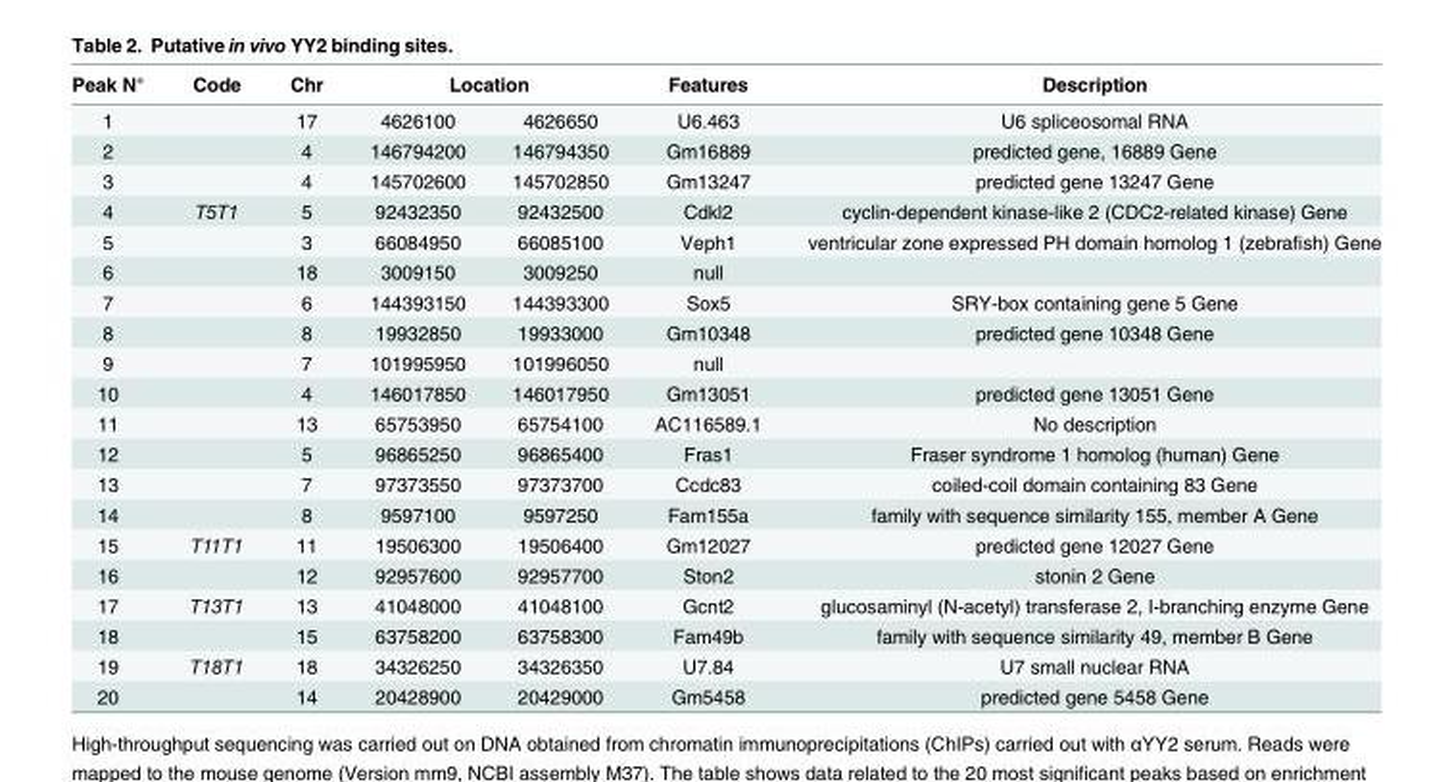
<table><thead><tr><td rowspan="2">Peak N° 1</td><td rowspan="2">Code</td><td rowspan="2">Chr 17</td><td colspan="2">Location</td><td rowspan="2">Features U6.463</td><td rowspan="2">Description U6 spliceosomal RNA</td></tr><tr><td>4626100</td><td>4626650</td></tr></thead><tbody><tr><td>2</td><td></td><td>4</td><td>146794200</td><td>146794350</td><td>Gm16889</td><td>predicted gene, 16889 Gene</td></tr><tr><td>3</td><td></td><td>4</td><td>145702600</td><td>145702850</td><td>Gm13247</td><td>predicted gene 13247 Gene</td></tr><tr><td>4</td><td>T5T1</td><td>5</td><td>92432350</td><td>92432500</td><td>Cdkl2</td><td>cyclin-dependent kinase-like 2 (CDC2-related kinase) Gene</td></tr><tr><td>5</td><td></td><td>3</td><td>66084950</td><td>66085100</td><td>Veph1</td><td>ventricular zone expressed PH domain homolog 1 (zebrafish) Gene</td></tr><tr><td>6</td><td></td><td>18</td><td>3009150</td><td>3009250</td><td>null</td><td></td></tr><tr><td>7</td><td></td><td>6</td><td>144393150</td><td>144393300</td><td>Sox5</td><td>SRY-box containing gene 5 Gene</td></tr><tr><td>8</td><td></td><td>8</td><td>19932850</td><td>19933000</td><td>Gm10348</td><td>predicted gene 10348 Gene</td></tr><tr><td>9</td><td></td><td>7</td><td>101995950</td><td>101996050</td><td>null</td><td></td></tr><tr><td>10</td><td></td><td>4</td><td>146017850</td><td>146017950</td><td>Gm13051</td><td>predicted gene 13051 Gene</td></tr><tr><td>11</td><td></td><td>13</td><td>65753950</td><td>65754100</td><td>AC116589.1</td><td>No description</td></tr><tr><td>12</td><td></td><td>5</td><td>96865250</td><td>96865400</td><td>Fras1</td><td>Fraser syndrome 1 homolog (human) Gene</td></tr><tr><td>13</td><td></td><td>7</td><td>97373550</td><td>97373700</td><td>Ccdc83</td><td>coiled-coil domain containing 83 Gene</td></tr><tr><td>14</td><td></td><td>8</td><td>9597100</td><td>9597250</td><td>Fam155a</td><td>family with sequence similarity 155, member A Gene</td></tr><tr><td>15</td><td>T11T1</td><td>11</td><td>19506300</td><td>19506400</td><td>Gm12027</td><td>predicted gene 12027 Gene</td></tr><tr><td>16</td><td></td><td>12</td><td>92957600</td><td>92957700</td><td>Ston2</td><td>stonin 2 Gene</td></tr><tr><td>17</td><td>T13T1</td><td>13</td><td>41048000</td><td>41048100</td><td>Gcnt2</td><td>glucosaminyl (N-acetyl) transferase 2, I-branching enzyme Gene</td></tr><tr><td>18</td><td></td><td>15</td><td>63758200</td><td>63758300</td><td>Fam49b</td><td>family with sequence similarity 49, member B Gene</td></tr><tr><td>19</td><td>T18T1</td><td>18</td><td>34326250</td><td>34326350</td><td>U7.84</td><td>U7 small nuclear RNA</td></tr><tr><td>20</td><td></td><td>14</td><td>20428900</td><td>20429000</td><td>Gm5458</td><td>predicted gene 5458 Gene</td></tr></tbody></table>